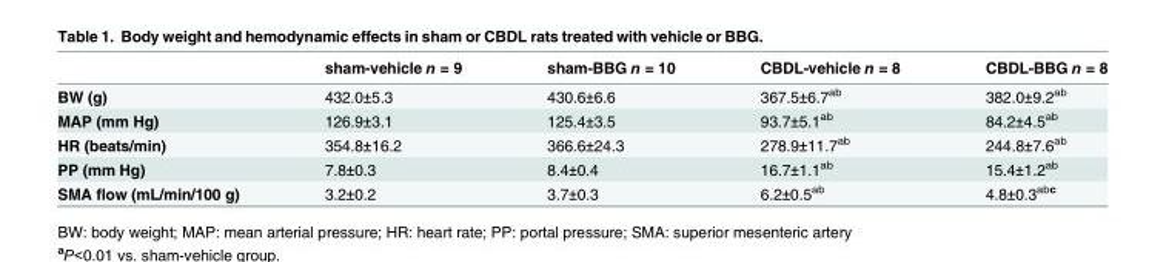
<table><thead><tr><td></td><td>sham-vehicle n = 9</td><td>sham-BBG n = 10</td><td>CBDL-vehicle n = 8</td><td>CBDL-BBG n = 8</td></tr></thead><tbody><tr><td>BW (g)</td><td>432.0±5.3</td><td>430.6±6.6</td><td>367.5±6.7<sup>ab</sup></td><td>382.0±9.2<sup>ab</sup></td></tr><tr><td>MAP (mm Hg)</td><td>126.9±3.1</td><td>125.4±3.5</td><td>93.7±5.1<sup>ab</sup></td><td>84.2±4.5<sup>ab</sup></td></tr><tr><td>HR (beats/min)</td><td>354.8±16.2</td><td>366.6±24.3</td><td>278.9±11.7<sup>ab</sup></td><td>244.8±7.6<sup>ab</sup></td></tr><tr><td>PP (mm Hg)</td><td>7.8±0.3</td><td>8.4±0.4</td><td>16.7±1.1<sup>ab</sup></td><td>15.4±1.2<sup>ab</sup></td></tr><tr><td>SMA flow (mL/min/100 g)</td><td>3.2±0.2</td><td>3.7±0.3</td><td>6.2±0.5<sup>ab</sup></td><td>4.8±0.3<sup>abc</sup></td></tr></tbody></table>